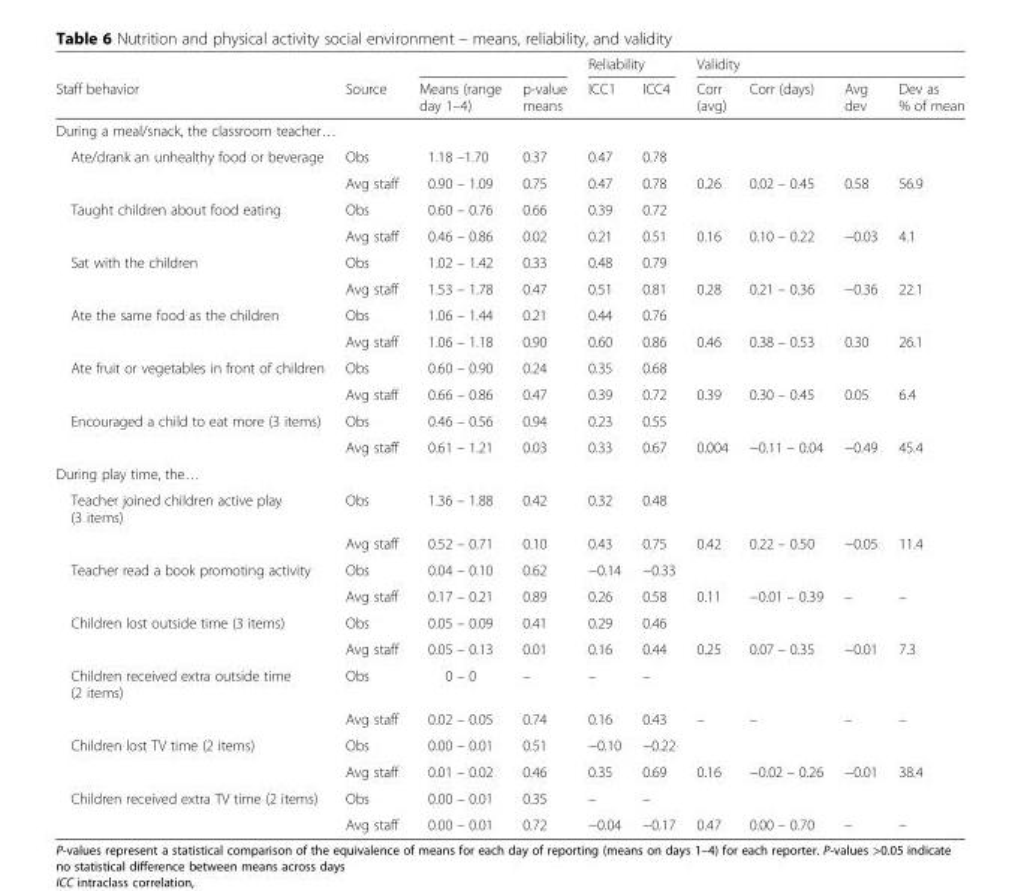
<table><thead><tr><td rowspan="2">Staff behavior</td><td rowspan="2">Source</td><td rowspan="2">Means (range day 1–4)</td><td rowspan="2">p-value means</td><td colspan="2">Reliability</td><td colspan="4">Validity</td></tr><tr><td>ICC1</td><td>ICC4</td><td>Corr (avg)</td><td>Corr (days)</td><td>Avg dev</td><td>Dev as % of mean</td></tr></thead><tbody><tr><td colspan="10">During a meal/snack, the classroom teacher…</td></tr><tr><td rowspan="2">Ate/drank an unhealthy food or beverage</td><td>Obs</td><td>1.18 –1.70</td><td>0.37</td><td>0.47</td><td>0.78</td><td></td><td></td><td></td><td></td></tr><tr><td>Avg staff</td><td>0.90 – 1.09</td><td>0.75</td><td>0.47</td><td>0.78</td><td>0.26</td><td>0.02 – 0.45</td><td>0.58</td><td>56.9</td></tr><tr><td rowspan="2">Taught children about food eating</td><td>Obs</td><td>0.60 – 0.76</td><td>0.66</td><td>0.39</td><td>0.72</td><td></td><td></td><td></td><td></td></tr><tr><td>Avg staff</td><td>0.46 – 0.86</td><td>0.02</td><td>0.21</td><td>0.51</td><td>0.16</td><td>0.10 – 0.22</td><td>−0.03</td><td>4.1</td></tr><tr><td rowspan="2">Sat with the children</td><td>Obs</td><td>1.02 – 1.42</td><td>0.33</td><td>0.48</td><td>0.79</td><td></td><td></td><td></td><td></td></tr><tr><td>Avg staff</td><td>1.53 – 1.78</td><td>0.47</td><td>0.51</td><td>0.81</td><td>0.28</td><td>0.21 – 0.36</td><td>−0.36</td><td>22.1</td></tr><tr><td rowspan="2">Ate the same food as the children</td><td>Obs</td><td>1.06 – 1.44</td><td>0.21</td><td>0.44</td><td>0.76</td><td></td><td></td><td></td><td></td></tr><tr><td>Avg staff</td><td>1.06 – 1.18</td><td>0.90</td><td>0.60</td><td>0.86</td><td>0.46</td><td>0.38 – 0.53</td><td>0.30</td><td>26.1</td></tr><tr><td rowspan="2">Ate fruit or vegetables in front of children</td><td>Obs</td><td>0.60 – 0.90</td><td>0.24</td><td>0.35</td><td>0.68</td><td></td><td></td><td></td><td></td></tr><tr><td>Avg staff</td><td>0.66 – 0.86</td><td>0.47</td><td>0.39</td><td>0.72</td><td>0.39</td><td>0.30 – 0.45</td><td>0.05</td><td>6.4</td></tr><tr><td rowspan="2">Encouraged a child to eat more (3 items)</td><td>Obs</td><td>0.46 – 0.56</td><td>0.94</td><td>0.23</td><td>0.55</td><td></td><td></td><td></td><td></td></tr><tr><td>Avg staff</td><td>0.61 – 1.21</td><td>0.03</td><td>0.33</td><td>0.67</td><td>0.004</td><td>−0.11 – 0.04</td><td>−0.49</td><td>45.4</td></tr><tr><td colspan="10">During play time, the…</td></tr><tr><td rowspan="2">Teacher joined children active play (3 items)</td><td>Obs</td><td>1.36 – 1.88</td><td>0.42</td><td>0.32</td><td>0.48</td><td></td><td></td><td></td><td></td></tr><tr><td>Avg staff</td><td>0.52 – 0.71</td><td>0.10</td><td>0.43</td><td>0.75</td><td>0.42</td><td>0.22 – 0.50</td><td>−0.05</td><td>11.4</td></tr><tr><td rowspan="2">Teacher read a book promoting activity</td><td>Obs</td><td>0.04 – 0.10</td><td>0.62</td><td>−0.14</td><td>−0.33</td><td></td><td></td><td></td><td></td></tr><tr><td>Avg staff</td><td>0.17 – 0.21</td><td>0.89</td><td>0.26</td><td>0.58</td><td>0.11</td><td>−0.01 – 0.39</td><td>–</td><td>–</td></tr><tr><td rowspan="2">Children lost outside time (3 items)</td><td>Obs</td><td>0.05 – 0.09</td><td>0.41</td><td>0.29</td><td>0.46</td><td></td><td></td><td></td><td></td></tr><tr><td>Avg staff</td><td>0.05 – 0.13</td><td>0.01</td><td>0.16</td><td>0.44</td><td>0.25</td><td>0.07 – 0.35</td><td>−0.01</td><td>7.3</td></tr><tr><td rowspan="2">Children received extra outside time (2 items)</td><td>Obs</td><td>0 – 0</td><td>–</td><td>–</td><td>–</td><td></td><td></td><td></td><td></td></tr><tr><td>Avg staff</td><td>0.02 – 0.05</td><td>0.74</td><td>0.16</td><td>0.43</td><td>–</td><td>–</td><td>–</td><td>–</td></tr><tr><td rowspan="2">Children lost TV time (2 items)</td><td>Obs</td><td>0.00 – 0.01</td><td>0.51</td><td>−0.10</td><td>−0.22</td><td></td><td></td><td></td><td></td></tr><tr><td>Avg staff</td><td>0.01 – 0.02</td><td>0.46</td><td>0.35</td><td>0.69</td><td>0.16</td><td>−0.02 – 0.26</td><td>−0.01</td><td>38.4</td></tr><tr><td rowspan="2">Children received extra TV time (2 items)</td><td>Obs</td><td>0.00 – 0.01</td><td>0.35</td><td>–</td><td>–</td><td></td><td></td><td></td><td></td></tr><tr><td>Avg staff</td><td>0.00 – 0.01</td><td>0.72</td><td>−0.04</td><td>−0.17</td><td>0.47</td><td>0.00 – 0.70</td><td>–</td><td>–</td></tr></tbody></table>